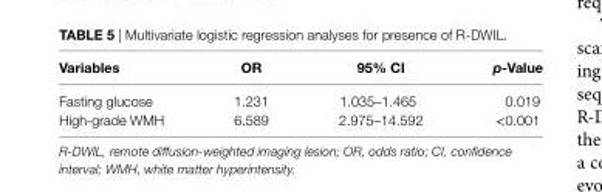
<table><thead><tr><td>Variables</td><td>Or</td><td>95% ci</td><td>p-Value</td></tr></thead><tbody><tr><td>Fasting glucose</td><td>1.231</td><td>1.035–1.465</td><td>0.019</td></tr><tr><td>High-grade WMH</td><td>6.589</td><td>2.975–14.592</td><td>&lt;0.001</td></tr></tbody></table>